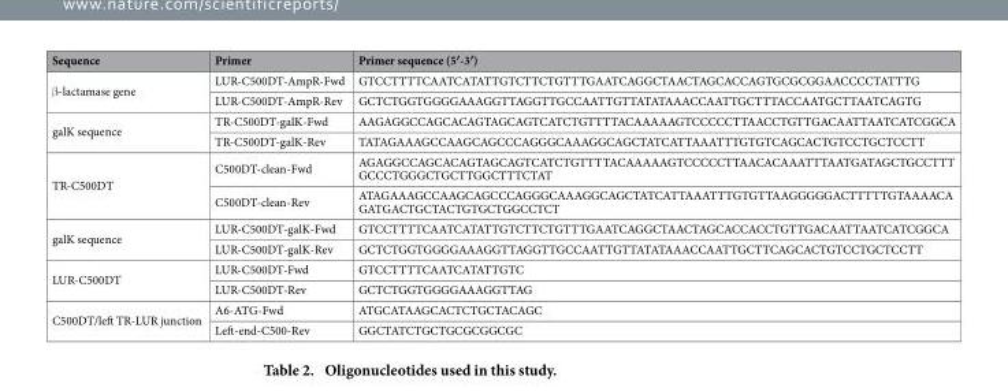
<table><thead><tr><td>Sequence</td><td>Primer</td><td>Primer sequence (5′-3′)</td></tr></thead><tbody><tr><td rowspan="2">β -lactamase gene</td><td>LUR-C500DT-AmpR-Fwd</td><td>GTCCTTTTCAATCATATTGTCTTCTGTTTGAATCAGGCTAACTAGCACCAGTGCGCGGAACCCCTATTTG</td></tr><tr><td>LUR-C500DT-AmpR-Rev</td><td>GCTCTGGTGGGGAAAGGTTAGGTTGCCAATTGTTATATAAACCAATTGCTTTACCAATGCTTAATCAGTG</td></tr><tr><td rowspan="2">galK sequence</td><td>TR-C500DT-galK-Fwd</td><td>AAGAGGCCAGCACAGTAGCAGTCATCTGTTTTACAAAAAGTCCCCCTTAACCTGTTGACAATTAATCATCGGCA</td></tr><tr><td>TR-C500DT-galK-Rev</td><td>TATAGAAAGCCAAGCAGCCCAGGGCAAAGGCAGCTATCATTAAATTTGTGTCAGCACTGTCCTGCTCCTT</td></tr><tr><td rowspan="2">TR-C500DT</td><td>C500DT-clean-Fwd</td><td>AGAGGCCAGCACAGTAGCAGTCATCTGTTTTACAAAAAGTCCCCCTTAACACAAATTTAATGATAGCTGCCTTT GCCCTGGGCTGCTTGGCTTTCTAT</td></tr><tr><td>C500DT-clean-Rev</td><td>ATAGAAAGCCAAGCAGCCCAGGGCAAAGGCAGCTATCATTAAATTTGTGTTAAGGGGGACTTTTTGTAAAACA GATGACTGCTACTGTGCTGGCCTCT</td></tr><tr><td rowspan="2">galK sequence</td><td>LUR-C500DT-galK-Fwd</td><td>GTCCTTTTCAATCATATTGTCTTCTGTTTGAATCAGGCTAACTAGCACCACCTGTTGACAATTAATCATCGGCA</td></tr><tr><td>LUR-C500DT-galK-Rev</td><td>GCTCTGGTGGGGAAAGGTTAGGTTGCCAATTGTTATATAAACCAATTGCTTCAGCACTGTCCTGCTCCTT</td></tr><tr><td rowspan="2">LUR-C500DT</td><td>LUR-C500DT-Fwd</td><td>GTCCTTTTCAATCATATTGTC</td></tr><tr><td>LUR-C500DT-Rev</td><td>GCTCTGGTGGGGAAAGGTTAG</td></tr><tr><td rowspan="2">C500DT/left TR-LUR junction</td><td>A6-ATG-Fwd</td><td>ATGCATAAGCACTCTGCTACAGC</td></tr><tr><td>Left-end-C500-Rev</td><td>GGCTATCTGCTGCGCGGCGC</td></tr></tbody></table>